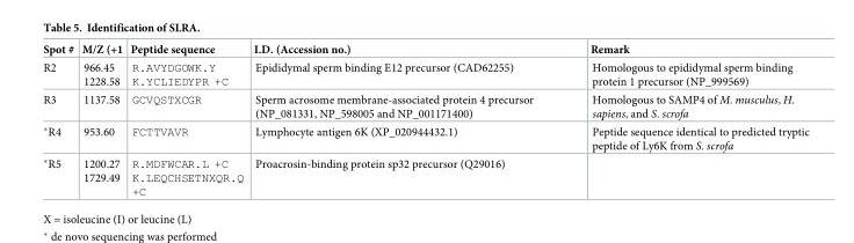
<table><thead><tr><td>Spot #</td><td>M/Z (+1</td><td>Peptide sequence</td><td>I.D. (Accession no.)</td><td>Remark</td></tr></thead><tbody><tr><td>R2</td><td>966.45 1228.58</td><td>R.AVYDGOWK.Y K.YCLIEDYPR +C</td><td>Epididymal sperm binding E12 precursor (CAD62255)</td><td>Homologous to epididymal sperm binding protein 1 precursor (NP_999569)</td></tr><tr><td>R3</td><td>1137.58</td><td>GCVQSTXCGR</td><td>Sperm acrosome membrane-associated protein 4 precursor (NP_081331, NP_598005 and NP_001171400)</td><td>Homologous to SAMP4 of M. musculus, H. sapiens, and S. scrofa</td></tr><tr><td>*R4</td><td>953.60</td><td>FCTTVAVR</td><td>Lymphocyte antigen 6K (XP_020944432.1)</td><td>Peptide sequence identical to predicted tryptic peptide of Ly6K from S. scrofa</td></tr><tr><td>*R5</td><td>1200.27 1729.49</td><td>R.MDFWCAR.L +C K.LEQCHSETNXQR.Q +C</td><td>Proacrosin-binding protein sp32 precursor (Q29016)</td><td></td></tr></tbody></table>